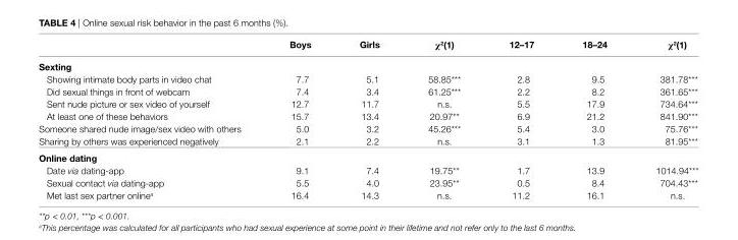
<table><thead><tr><td></td><td>Boys</td><td>girls</td><td>χ<sup>2</sup>(1)</td><td>12–17</td><td>18–24</td><td>χ<sup>2</sup>(1)</td></tr></thead><tbody><tr><td colspan="7">sexting</td></tr><tr><td>Showing intimate body parts in video chat</td><td>7.7</td><td>5.1</td><td>58.85***</td><td>2.8</td><td>9.5</td><td>381.78***</td></tr><tr><td>Did sexual things in front of webcam</td><td>7.4</td><td>3.4</td><td>61.25***</td><td>2.2</td><td>8.2</td><td>361.65***</td></tr><tr><td>Sent nude picture or sex video of yourself</td><td>12.7</td><td>11.7</td><td>n.s.</td><td>5.5</td><td>17.9</td><td>734.64***</td></tr><tr><td>At least one of these behaviors</td><td>15.7</td><td>13.4</td><td>20.97**</td><td>6.9</td><td>21.2</td><td>841.90***</td></tr><tr><td>Someone shared nude image/sex video with others</td><td>5.0</td><td>3.2</td><td>45.26***</td><td>5.4</td><td>3.0</td><td>75.76***</td></tr><tr><td>Sharing by others was experienced negatively</td><td>2.1</td><td>2.2</td><td>n.s.</td><td>3.1</td><td>1.3</td><td>81.95***</td></tr><tr><td colspan="7">Online dating</td></tr><tr><td>Date via dating-app</td><td>9.1</td><td>7.4</td><td>19.75**</td><td>1.7</td><td>13.9</td><td>1014.94***</td></tr><tr><td>Sexual contact via dating-app</td><td>5.5</td><td>4.0</td><td>23.95**</td><td>0.5</td><td>8.4</td><td>704.43***</td></tr><tr><td>Met last sex partner online<sup>a</sup></td><td>16.4</td><td>14.3</td><td>n.s.</td><td>11.2</td><td>16.1</td><td>n.s.</td></tr></tbody></table>